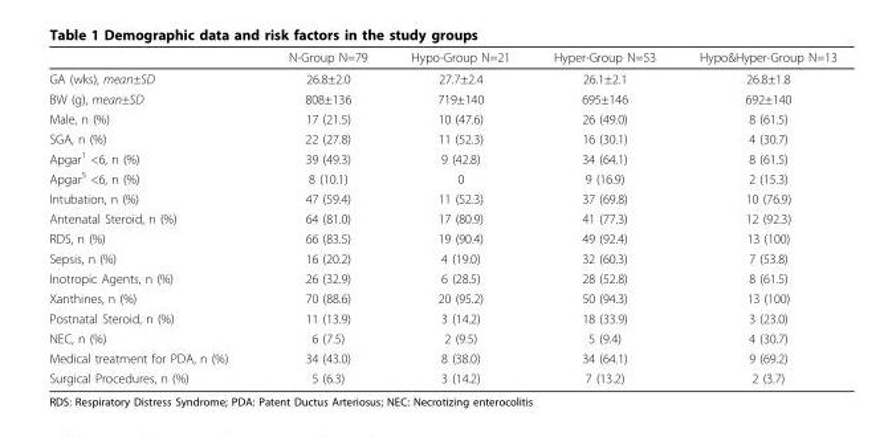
<table><thead><tr><td></td><td>N-Group N=79</td><td>Hypo-Group N=21</td><td>Hyper-Group N=53</td><td>Hypo&amp;Hyper-Group N=13</td></tr></thead><tbody><tr><td>GA (wks), mean±SD</td><td>26.8±2.0</td><td>27.7±2.4</td><td>26.1±2.1</td><td>26.8±1.8</td></tr><tr><td>BW (g), mean±SD</td><td>808±136</td><td>719±140</td><td>695±146</td><td>692±140</td></tr><tr><td>Male, n (%)</td><td>17 (21.5)</td><td>10 (47.6)</td><td>26 (49.0)</td><td>8 (61.5)</td></tr><tr><td>SGA, n (%)</td><td>22 (27.8)</td><td>11 (52.3)</td><td>16 (30.1)</td><td>4 (30.7)</td></tr><tr><td>Apgar<sup>1</sup> &lt;6, n (%)</td><td>39 (49.3)</td><td>9 (42.8)</td><td>34 (64.1)</td><td>8 (61.5)</td></tr><tr><td>Apgar<sup>5</sup> &lt;6, n (%)</td><td>8 (10.1)</td><td>0</td><td>9 (16.9)</td><td>2 (15.3)</td></tr><tr><td>Intubation, n (%)</td><td>47 (59.4)</td><td>11 (52.3)</td><td>37 (69.8)</td><td>10 (76.9)</td></tr><tr><td>Antenatal Steroid, n (%)</td><td>64 (81.0)</td><td>17 (80.9)</td><td>41 (77.3)</td><td>12 (92.3)</td></tr><tr><td>RDS, n (%)</td><td>66 (83.5)</td><td>19 (90.4)</td><td>49 (92.4)</td><td>13 (100)</td></tr><tr><td>Sepsis, n (%)</td><td>16 (20.2)</td><td>4 (19.0)</td><td>32 (60.3)</td><td>7 (53.8)</td></tr><tr><td>Inotropic Agents, n (%)</td><td>26 (32.9)</td><td>6 (28.5)</td><td>28 (52.8)</td><td>8 (61.5)</td></tr><tr><td>Xanthines, n (%)</td><td>70 (88.6)</td><td>20 (95.2)</td><td>50 (94.3)</td><td>13 (100)</td></tr><tr><td>Postnatal Steroid, n (%)</td><td>11 (13.9)</td><td>3 (14.2)</td><td>18 (33.9)</td><td>3 (23.0)</td></tr><tr><td>NEC, n (%)</td><td>6 (7.5)</td><td>2 (9.5)</td><td>5 (9.4)</td><td>4 (30.7)</td></tr><tr><td>Medical treatment for PDA, n (%)</td><td>34 (43.0)</td><td>8 (38.0)</td><td>34 (64.1)</td><td>9 (69.2)</td></tr><tr><td>Surgical Procedures, n (%)</td><td>5 (6.3)</td><td>3 (14.2)</td><td>7 (13.2)</td><td>2 (3.7)</td></tr></tbody></table>